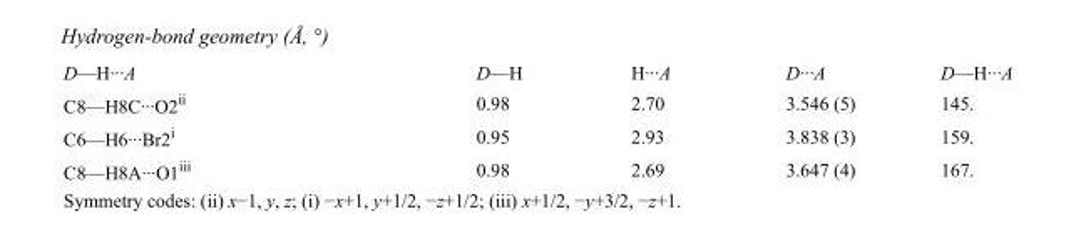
<table><tbody><tr><td>D—H···A</td><td>D—H</td><td>H···A</td><td>D···A</td><td>D—H···A</td></tr><tr><td>C8—H8C···O2<sup>ii</sup></td><td>0.98</td><td>2.70</td><td>3.546 (5)</td><td>145.</td></tr><tr><td>C6—H6···Br2<sup>i</sup></td><td>0.95</td><td>2.93</td><td>3.838 (3)</td><td>159.</td></tr><tr><td>C8—H8A···O1<sup>iii</sup></td><td>0.98</td><td>2.69</td><td>3.647 (4)</td><td>167.</td></tr></tbody></table>